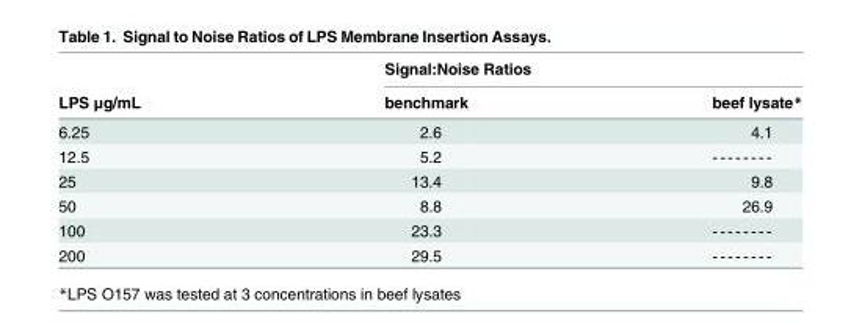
<table><thead><tr><td rowspan="2">LPS μg/mL</td><td colspan="2">Signal:Noise Ratios</td></tr><tr><td>benchmark</td><td>beef lysate*</td></tr></thead><tbody><tr><td>6.25</td><td>2.6</td><td>4.1</td></tr><tr><td>12.5</td><td>5.2</td><td>- - - - - - - -</td></tr><tr><td>25</td><td>13.4</td><td>9.8</td></tr><tr><td>50</td><td>8.8</td><td>26.9</td></tr><tr><td>100</td><td>23.3</td><td>- - - - - - - -</td></tr><tr><td>200</td><td>29.5</td><td>- - - - - - - -</td></tr></tbody></table>